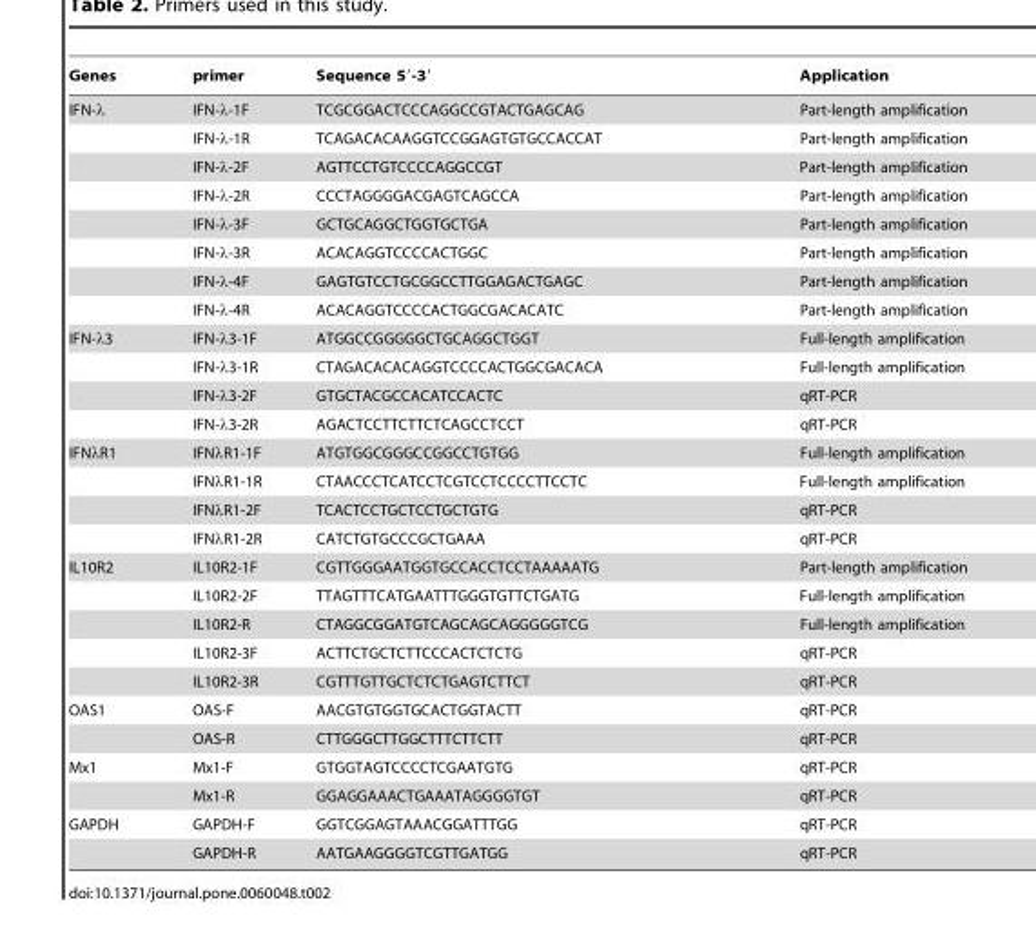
<table><thead><tr><td>Genes</td><td>primer</td><td>Sequence 5′-3′</td><td>Application</td></tr></thead><tbody><tr><td rowspan="8">IFN-λ</td><td>IFN-λ-1F</td><td>TCGCGGACTCCCAGGCCGTACTGAGCAG</td><td>Part-length amplification</td></tr><tr><td>IFN-λ-1R</td><td>TCAGACACAAGGTCCGGAGTGTGCCACCAT</td><td>Part-length amplification</td></tr><tr><td>IFN-λ-2F</td><td>AGTTCCTGTCCCCAGGCCGT</td><td>Part-length amplification</td></tr><tr><td>IFN-λ-2R</td><td>CCCTAGGGGACGAGTCAGCCA</td><td>Part-length amplification</td></tr><tr><td>IFN-λ-3F</td><td>GCTGCAGGCTGGTGCTGA</td><td>Part-length amplification</td></tr><tr><td>IFN-λ-3R</td><td>ACACAGGTCCCCACTGGC</td><td>Part-length amplification</td></tr><tr><td>IFN-λ-4F</td><td>GAGTGTCCTGCGGCCTTGGAGACTGAGC</td><td>Part-length amplification</td></tr><tr><td>IFN-λ-4R</td><td>ACACAGGTCCCCACTGGCGACACATC</td><td>Part-length amplification</td></tr><tr><td rowspan="4">IFN-λ3</td><td>IFN-λ3-1F</td><td>ATGGCCGGGGGCTGCAGGCTGGT</td><td>Full-length amplification</td></tr><tr><td>IFN-λ3-1R</td><td>CTAGACACACAGGTCCCCACTGGCGACACA</td><td>Full-length amplification</td></tr><tr><td>IFN-λ3-2F</td><td>GTGCTACGCCACATCCACTC</td><td>qRT-PCR</td></tr><tr><td>IFN-λ3-2R</td><td>AGACTCCTTCTTCTCAGCCTCCT</td><td>qRT-PCR</td></tr><tr><td rowspan="4">IFNλR1</td><td>IFNλR1-1F</td><td>ATGTGGCGGGCCGGCCTGTGG</td><td>Full-length amplification</td></tr><tr><td>IFNλR1-1R</td><td>CTAACCCTCATCCTCGTCCTCCCCTTCCTC</td><td>Full-length amplification</td></tr><tr><td>IFNλR1-2F</td><td>TCACTCCTGCTCCTGCTGTG</td><td>qRT-PCR</td></tr><tr><td>IFNλR1-2R</td><td>CATCTGTGCCCGCTGAAA</td><td>qRT-PCR</td></tr><tr><td rowspan="5">IL10R2</td><td>IL10R2-1F</td><td>CGTTGGGAATGGTGCCACCTCCTAAAAATG</td><td>Part-length amplification</td></tr><tr><td>IL10R2-2F</td><td>TTAGTTTCATGAATTTGGGTGTTCTGATG</td><td>Full-length amplification</td></tr><tr><td>IL10R2-R</td><td>CTAGGCGGATGTCAGCAGCAGGGGGTCG</td><td>Full-length amplification</td></tr><tr><td>IL10R2-3F</td><td>ACTTCTGCTCTTCCCACTCTCTG</td><td>qRT-PCR</td></tr><tr><td>IL10R2-3R</td><td>CGTTTGTTGCTCTCTGAGTCTTCT</td><td>qRT-PCR</td></tr><tr><td rowspan="2">OAS1</td><td>OAS-F</td><td>AACGTGTGGTGCACTGGTACTT</td><td>qRT-PCR</td></tr><tr><td>OAS-R</td><td>CTTGGGCTTGGCTTTCTTCTT</td><td>qRT-PCR</td></tr><tr><td rowspan="2">Mx1</td><td>Mx1-F</td><td>GTGGTAGTCCCCTCGAATGTG</td><td>qRT-PCR</td></tr><tr><td>Mx1-R</td><td>GGAGGAAACTGAAATAGGGGTGT</td><td>qRT-PCR</td></tr><tr><td rowspan="2">GAPDH</td><td>GAPDH-F</td><td>GGTCGGAGTAAACGGATTTGG</td><td>qRT-PCR</td></tr><tr><td>GAPDH-R</td><td>AATGAAGGGGTCGTTGATGG</td><td>qRT-PCR</td></tr></tbody></table>